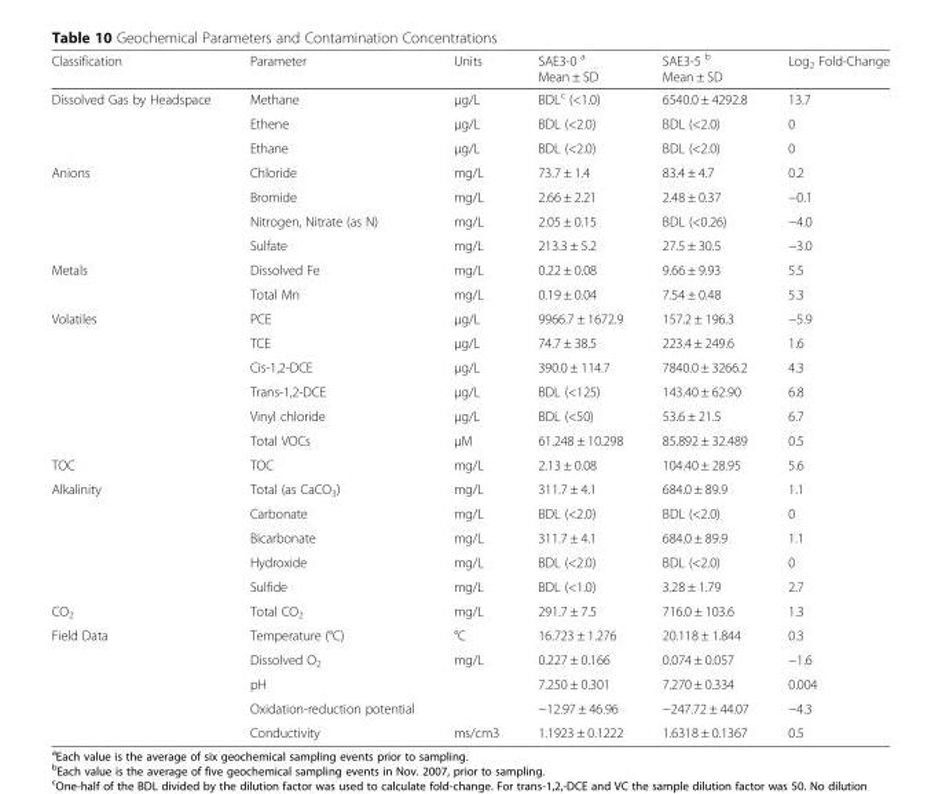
<table><thead><tr><td>Classification</td><td>Parameter</td><td>Units</td><td>SAE3-0 <sup>a</sup> Mean ± SD</td><td>SAE3-5 <sup>b</sup> Mean ± SD</td><td>Log<sub>2</sub> Fold-Change</td></tr></thead><tbody><tr><td rowspan="3">Dissolved Gas by Headspace</td><td>Methane</td><td>μg/L</td><td>BDL<sup>c</sup> (&lt;1.0)</td><td>6540.0 ± 4292.8</td><td>13.7</td></tr><tr><td>Ethene</td><td>μg/L</td><td>BDL (&lt;2.0)</td><td>BDL (&lt;2.0)</td><td>0</td></tr><tr><td>Ethane</td><td>μg/L</td><td>BDL (&lt;2.0)</td><td>BDL (&lt;2.0)</td><td>0</td></tr><tr><td rowspan="4">Anions</td><td>Chloride</td><td>mg/L</td><td>73.7 ± 1.4</td><td>83.4 ± 4.7</td><td>0.2</td></tr><tr><td>Bromide</td><td>mg/L</td><td>2.66 ± 2.21</td><td>2.48 ± 0.37</td><td>−0.1</td></tr><tr><td>Nitrogen, Nitrate (as N)</td><td>mg/L</td><td>2.05 ± 0.15</td><td>BDL (&lt;0.26)</td><td>−4.0</td></tr><tr><td>Sulfate</td><td>mg/L</td><td>213.3 ± 5.2</td><td>27.5 ± 30.5</td><td>−3.0</td></tr><tr><td rowspan="2">Metals</td><td>Dissolved Fe</td><td>mg/L</td><td>0.22 ± 0.08</td><td>9.66 ± 9.93</td><td>5.5</td></tr><tr><td>Total Mn</td><td>mg/L</td><td>0.19 ± 0.04</td><td>7.54 ± 0.48</td><td>5.3</td></tr><tr><td rowspan="6">Volatiles</td><td>PCE</td><td>μg/L</td><td>9966.7 ± 1672.9</td><td>157.2 ± 196.3</td><td>−5.9</td></tr><tr><td>TCE</td><td>μg/L</td><td>74.7 ± 38.5</td><td>223.4 ± 249.6</td><td>1.6</td></tr><tr><td>Cis-1,2-DCE</td><td>μg/L</td><td>390.0 ± 114.7</td><td>7840.0 ± 3266.2</td><td>4.3</td></tr><tr><td>Trans-1,2-DCE</td><td>μg/L</td><td>BDL (&lt;125)</td><td>143.40 ± 62.90</td><td>6.8</td></tr><tr><td>Vinyl chloride</td><td>μg/L</td><td>BDL (&lt;50)</td><td>53.6 ± 21.5</td><td>6.7</td></tr><tr><td>Total VOCs</td><td>μM</td><td>61.248 ± 10.298</td><td>85.892 ± 32.489</td><td>0.5</td></tr><tr><td>TOC</td><td>TOC</td><td>mg/L</td><td>2.13 ± 0.08</td><td>104.40 ± 28.95</td><td>5.6</td></tr><tr><td rowspan="5">Alkalinity</td><td>Total (as CaCO<sub>3</sub>)</td><td>mg/L</td><td>311.7 ± 4.1</td><td>684.0 ± 89.9</td><td>1.1</td></tr><tr><td>Carbonate</td><td>mg/L</td><td>BDL (&lt;2.0)</td><td>BDL (&lt;2.0)</td><td>0</td></tr><tr><td>Bicarbonate</td><td>mg/L</td><td>311.7 ± 4.1</td><td>684.0 ± 89.9</td><td>1.1</td></tr><tr><td>Hydroxide</td><td>mg/L</td><td>BDL (&lt;2.0)</td><td>BDL (&lt;2.0)</td><td>0</td></tr><tr><td>Sulfide</td><td>mg/L</td><td>BDL (&lt;1.0)</td><td>3.28 ± 1.79</td><td>2.7</td></tr><tr><td>CO<sub>2</sub></td><td>Total CO<sub>2</sub></td><td>mg/L</td><td>291.7 ± 7.5</td><td>716.0 ± 103.6</td><td>1.3</td></tr><tr><td rowspan="5">Field Data</td><td>Temperature (°C)</td><td>°C</td><td>16.723 ± 1.276</td><td>20.118 ± 1.844</td><td>0.3</td></tr><tr><td>Dissolved O<sub>2</sub></td><td>mg/L</td><td>0.227 ± 0.166</td><td>0.074 ± 0.057</td><td>−1.6</td></tr><tr><td>pH</td><td></td><td>7.250 ± 0.301</td><td>7.270 ± 0.334</td><td>0.004</td></tr><tr><td>Oxidation-reduction potential</td><td></td><td>−12.97 ± 46.96</td><td>−247.72 ± 44.07</td><td>−4.3</td></tr><tr><td>Conductivity</td><td>ms/cm3</td><td>1.1923 ± 0.1222</td><td>1.6318 ± 0.1367</td><td>0.5</td></tr></tbody></table>